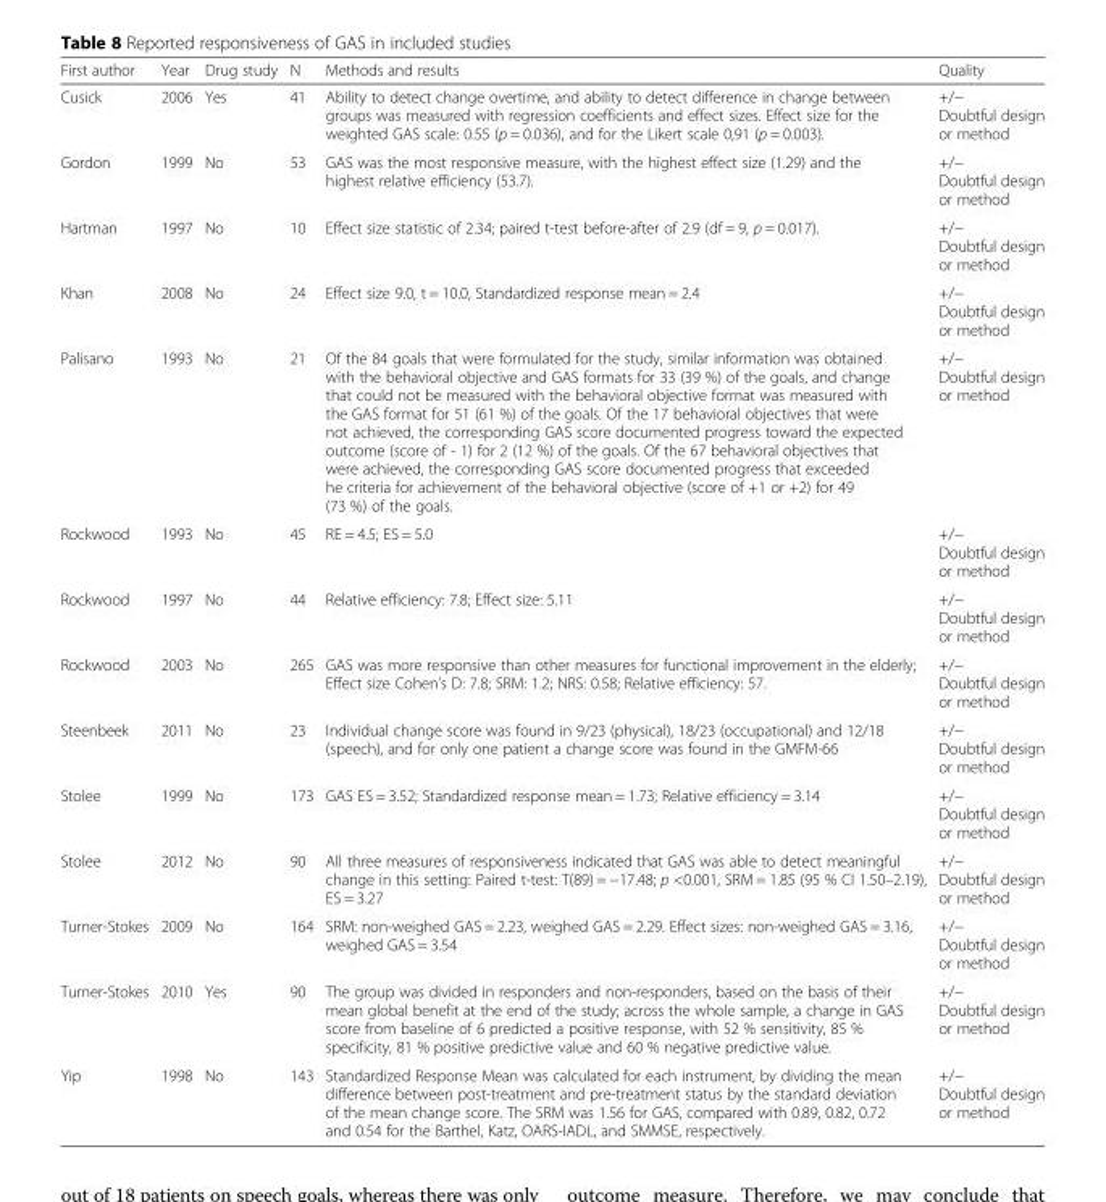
<table><thead><tr><td>First author</td><td>Year</td><td>Drug study</td><td>N</td><td>Methods and results</td><td>Quality</td></tr></thead><tbody><tr><td>Cusick</td><td>2006</td><td>Yes</td><td>41</td><td>Ability to detect change overtime, and ability to detect difference in change between groups was measured with regression coefficients and effect sizes. Effect size for the weighted GAS scale: 0.55 (p = 0.036), and for the Likert scale 0,91 (p = 0.003).</td><td>+/− Doubtful design or method</td></tr><tr><td>Gordon</td><td>1999</td><td>No</td><td>53</td><td>GAS was the most responsive measure, with the highest effect size (1.29) and the highest relative efficiency (53.7).</td><td>+/− Doubtful design or method</td></tr><tr><td>Hartman</td><td>1997</td><td>No</td><td>10</td><td>Effect size statistic of 2.34; paired t-test before-after of 2.9 (df = 9, p = 0.017).</td><td>+/− Doubtful design or method</td></tr><tr><td>Khan</td><td>2008</td><td>No</td><td>24</td><td>Effect size 9.0, t = 10.0, Standardized response mean = 2.4</td><td>+/− Doubtful design or method</td></tr><tr><td>Palisano</td><td>1993</td><td>No</td><td>21</td><td>Of the 84 goals that were formulated for the study, similar information was obtained with the behavioral objective and GAS formats for 33 (39 %) of the goals, and change that could not be measured with the behavioral objective format was measured with the GAS format for 51 (61 %) of the goals. Of the 17 behavioral objectives that were not achieved, the corresponding GAS score documented progress toward the expected outcome (score of - 1) for 2 (12 %) of the goals. Of the 67 behavioral objectives that were achieved, the corresponding GAS score documented progress that exceeded he criteria for achievement of the behavioral objective (score of +1 or +2) for 49 (73 %) of the goals.</td><td>+/− Doubtful design or method</td></tr><tr><td>Rockwood</td><td>1993</td><td>No</td><td>45</td><td>RE = 4.5; ES = 5.0</td><td>+/− Doubtful design or method</td></tr><tr><td>Rockwood</td><td>1997</td><td>No</td><td>44</td><td>Relative efficiency: 7.8; Effect size: 5.11</td><td>+/− Doubtful design or method</td></tr><tr><td>Rockwood</td><td>2003</td><td>No</td><td>265</td><td>GAS was more responsive than other measures for functional improvement in the elderly; Effect size Cohen’s D: 7.8; SRM: 1.2; NRS: 0.58; Relative efficiency: 57.</td><td>+/− Doubtful design or method</td></tr><tr><td>Steenbeek</td><td>2011</td><td>No</td><td>23</td><td>Individual change score was found in 9/23 (physical), 18/23 (occupational) and 12/18 (speech), and for only one patient a change score was found in the GMFM-66</td><td>+/− Doubtful design or method</td></tr><tr><td>Stolee</td><td>1999</td><td>No</td><td>173</td><td>GAS ES = 3.52; Standardized response mean = 1.73; Relative efficiency = 3.14</td><td>+/− Doubtful design or method</td></tr><tr><td>Stolee</td><td>2012</td><td>No</td><td>90</td><td>All three measures of responsiveness indicated that GAS was able to detect meaningful change in this setting: Paired t-test: T(89) = −17.48; p &lt;0.001, SRM = 1.85 (95 % CI 1.50–2.19), ES = 3.27</td><td>+/− Doubtful design or method</td></tr><tr><td>Turner-Stokes</td><td>2009</td><td>No</td><td>164</td><td>SRM: non-weighed GAS = 2.23, weighed GAS = 2.29. Effect sizes: non-weighed GAS = 3.16, weighed GAS = 3.54</td><td>+/− Doubtful design or method</td></tr><tr><td>Turner-Stokes</td><td>2010</td><td>Yes</td><td>90</td><td>The group was divided in responders and non-responders, based on the basis of their mean global benefit at the end of the study; across the whole sample, a change in GAS score from baseline of 6 predicted a positive response, with 52 % sensitivity, 85 % specificity, 81 % positive predictive value and 60 % negative predictive value.</td><td>+/− Doubtful design or method</td></tr><tr><td>Yip</td><td>1998</td><td>No</td><td>143</td><td>Standardized Response Mean was calculated for each instrument, by dividing the mean difference between post-treatment and pre-treatment status by the standard deviation of the mean change score. The SRM was 1.56 for GAS, compared with 0.89, 0.82, 0.72 and 0.54 for the Barthel, Katz, OARS-IADL, and SMMSE, respectively.</td><td>+/− Doubtful design or method</td></tr></tbody></table>